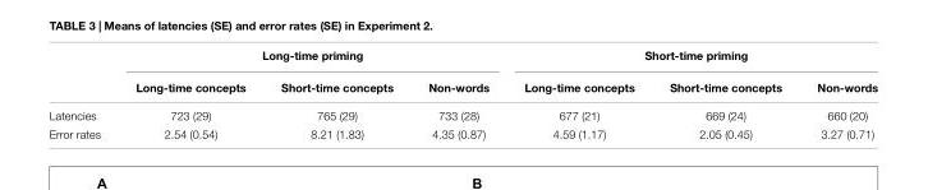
<table><thead><tr><td rowspan="2"></td><td colspan="3">Long-time priming</td><td colspan="3">Short-time priming</td></tr><tr><td>Long-time concepts</td><td>Short-time concepts</td><td>Non-words</td><td>Long-time concepts</td><td>Short-time concepts</td><td>Non-words</td></tr></thead><tbody><tr><td>Latencies</td><td>723 (29)</td><td>765 (29)</td><td>733 (28)</td><td>677 (21)</td><td>669 (24)</td><td>660 (20)</td></tr><tr><td>Error rates</td><td>2.54 (0.54)</td><td>8.21 (1.83)</td><td>4.35 (0.87)</td><td>4.59 (1.17)</td><td>2.05 (0.45)</td><td>3.27 (0.71)</td></tr></tbody></table>